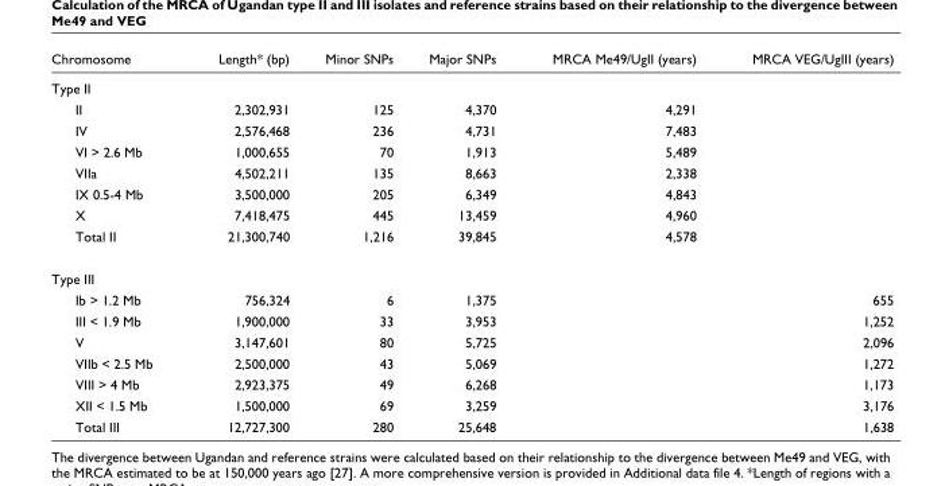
<table><thead><tr><td>Chromosome</td><td>Length* (bp)</td><td>Minor SNPs</td><td>Major SNPs</td><td>MRCA Me49/UgII (years)</td><td>MRCA VEG/UgIII (years)</td></tr></thead><tbody><tr><td colspan="6">Type II</td></tr><tr><td>II</td><td>2,302,931</td><td>125</td><td>4,370</td><td>4,291</td><td></td></tr><tr><td>IV</td><td>2,576,468</td><td>236</td><td>4,731</td><td>7,483</td><td></td></tr><tr><td>VI &gt; 2.6 Mb</td><td>1,000,655</td><td>70</td><td>1,913</td><td>5,489</td><td></td></tr><tr><td>VIIa</td><td>4,502,211</td><td>135</td><td>8,663</td><td>2,338</td><td></td></tr><tr><td>IX 0.5-4 Mb</td><td>3,500,000</td><td>205</td><td>6,349</td><td>4,843</td><td></td></tr><tr><td>X</td><td>7,418,475</td><td>445</td><td>13,459</td><td>4,960</td><td></td></tr><tr><td>Total II</td><td>21,300,740</td><td>1,216</td><td>39,845</td><td>4,578</td><td></td></tr><tr><td colspan="6">Type III</td></tr><tr><td>Ib &gt; 1.2 Mb</td><td>756,324</td><td>6</td><td>1,375</td><td></td><td>655</td></tr><tr><td>III &lt; 1.9 Mb</td><td>1,900,000</td><td>33</td><td>3,953</td><td></td><td>1,252</td></tr><tr><td>V</td><td>3,147,601</td><td>80</td><td>5,725</td><td></td><td>2,096</td></tr><tr><td>VIIb &lt; 2.5 Mb</td><td>2,500,000</td><td>43</td><td>5,069</td><td></td><td>1,272</td></tr><tr><td>VIII &gt; 4 Mb</td><td>2,923,375</td><td>49</td><td>6,268</td><td></td><td>1,173</td></tr><tr><td>XII &lt; 1.5 Mb</td><td>1,500,000</td><td>69</td><td>3,259</td><td></td><td>3,176</td></tr><tr><td>Total III</td><td>12,727,300</td><td>280</td><td>25,648</td><td></td><td>1,638</td></tr></tbody></table>